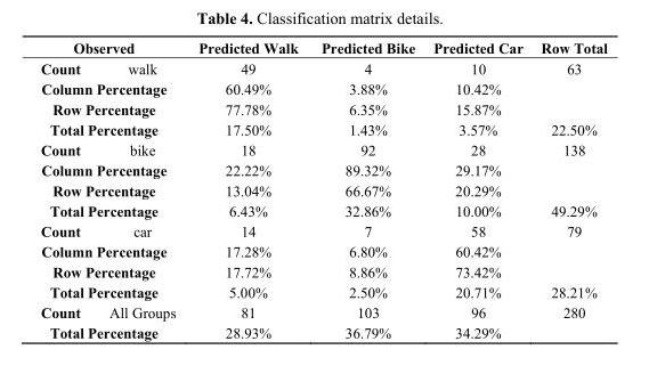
<table><thead><tr><td colspan="2">Observed</td><td rowspan="2">Predicted Walk 49</td><td rowspan="2">Predicted Bike 4</td><td rowspan="2">Predicted Car 10</td><td rowspan="2">Row Total 63</td></tr><tr><td>Count</td><td>walk</td></tr></thead><tbody><tr><td colspan="2">Column Percentage</td><td>60.49%</td><td>3.88%</td><td>10.42%</td><td></td></tr><tr><td colspan="2">Row Percentage</td><td>77.78%</td><td>6.35%</td><td>15.87%</td><td></td></tr><tr><td colspan="2">Total Percentage</td><td>17.50%</td><td>1.43%</td><td>3.57%</td><td>22.50%</td></tr><tr><td>Count</td><td>bike</td><td>18</td><td>92</td><td>28</td><td>138</td></tr><tr><td colspan="2">Column Percentage</td><td>22.22%</td><td>89.32%</td><td>29.17%</td><td></td></tr><tr><td colspan="2">Row Percentage</td><td>13.04%</td><td>66.67%</td><td>20.29%</td><td></td></tr><tr><td colspan="2">Total Percentage</td><td>6.43%</td><td>32.86%</td><td>10.00%</td><td>49.29%</td></tr><tr><td>Count</td><td>car</td><td>14</td><td>7</td><td>58</td><td>79</td></tr><tr><td colspan="2">Column Percentage</td><td>17.28%</td><td>6.80%</td><td>60.42%</td><td></td></tr><tr><td colspan="2">Row Percentage</td><td>17.72%</td><td>8.86%</td><td>73.42%</td><td></td></tr><tr><td colspan="2">Total Percentage</td><td>5.00%</td><td>2.50%</td><td>20.71%</td><td>28.21%</td></tr><tr><td>Count</td><td>All Groups</td><td>81</td><td>103</td><td>96</td><td>280</td></tr><tr><td colspan="2">Total Percentage</td><td>28.93%</td><td>36.79%</td><td>34.29%</td><td></td></tr></tbody></table>